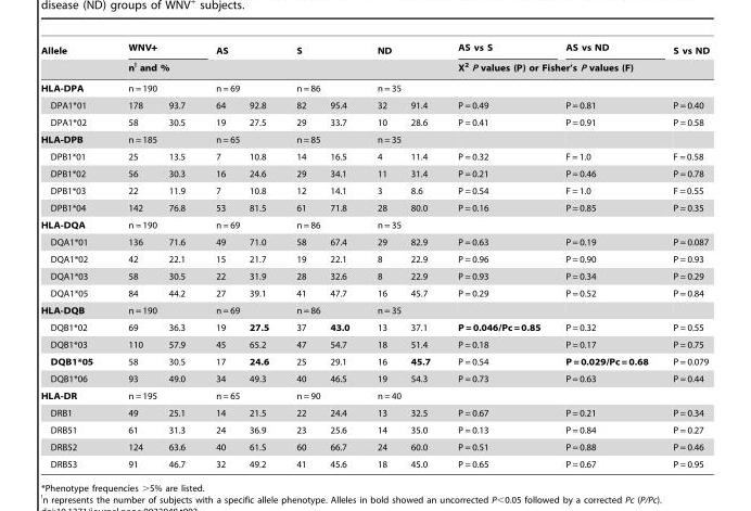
<table><thead><tr><td rowspan="4">Allele HLA-DPA DPA1*01</td><td colspan="2">WNV+</td><td colspan="2">AS</td><td colspan="2">S</td><td colspan="2">ND</td><td>AS vs S</td><td>AS vs ND</td><td>S vs ND</td></tr><tr><td colspan="8">n! and %</td><td colspan="3">X<sup>2</sup> P values (P) or Fisher’s P values (F)</td></tr><tr><td colspan="2">n = 190</td><td colspan="2">n = 69</td><td colspan="2">n = 86</td><td colspan="2">n = 35</td><td rowspan="2">P = 0.49</td><td rowspan="2">P = 0.81</td><td rowspan="2">P = 0.40</td></tr><tr><td>178</td><td>93.7</td><td>64</td><td>92.8</td><td>82</td><td>95.4</td><td>32</td><td>91.4</td></tr></thead><tbody><tr><td>DPA1*02</td><td>58</td><td>30.5</td><td>19</td><td>27.5</td><td>29</td><td>33.7</td><td>10</td><td>28.6</td><td>P = 0.41</td><td>P = 0.91</td><td>P = 0.58</td></tr><tr><td>HLA-DPB</td><td colspan="2">n = 185</td><td colspan="2">n = 65</td><td colspan="2">n = 85</td><td colspan="2">n = 35</td><td></td><td></td><td></td></tr><tr><td>DPB1*01</td><td>25</td><td>13.5</td><td>7</td><td>10.8</td><td>14</td><td>16.5</td><td>4</td><td>11.4</td><td>P = 0.32</td><td>F = 1.0</td><td>F = 0.58</td></tr><tr><td>DPB1*02</td><td>56</td><td>30.3</td><td>16</td><td>24.6</td><td>29</td><td>34.1</td><td>11</td><td>31.4</td><td>P = 0.21</td><td>P = 0.46</td><td>P = 0.78</td></tr><tr><td>DPB1*03</td><td>22</td><td>11.9</td><td>7</td><td>10.8</td><td>12</td><td>14.1</td><td>3</td><td>8.6</td><td>P = 0.54</td><td>F = 1.0</td><td>F = 0.55</td></tr><tr><td>DPB1*04</td><td>142</td><td>76.8</td><td>53</td><td>81.5</td><td>61</td><td>71.8</td><td>28</td><td>80.0</td><td>P = 0.16</td><td>P = 0.85</td><td>P = 0.35</td></tr><tr><td>HLA-DQA</td><td colspan="2">n = 190</td><td colspan="2">n = 69</td><td colspan="2">n = 86</td><td colspan="2">n = 35</td><td></td><td></td><td></td></tr><tr><td>DQA1*01</td><td>136</td><td>71.6</td><td>49</td><td>71.0</td><td>58</td><td>67.4</td><td>29</td><td>82.9</td><td>P = 0.63</td><td>P = 0.19</td><td>P = 0.087</td></tr><tr><td>DQA1*02</td><td>42</td><td>22.1</td><td>15</td><td>21.7</td><td>19</td><td>22.1</td><td>8</td><td>22.9</td><td>P = 0.96</td><td>P = 0.90</td><td>P = 0.93</td></tr><tr><td>DQA1*03</td><td>58</td><td>30.5</td><td>22</td><td>31.9</td><td>28</td><td>32.6</td><td>8</td><td>22.9</td><td>P = 0.93</td><td>P = 0.34</td><td>P = 0.29</td></tr><tr><td>DQA1*05</td><td>84</td><td>44.2</td><td>27</td><td>39.1</td><td>41</td><td>47.7</td><td>16</td><td>45.7</td><td>P = 0.29</td><td>P = 0.52</td><td>P = 0.84</td></tr><tr><td>HLA-DQB</td><td colspan="2">n = 190</td><td colspan="2">n = 69</td><td colspan="2">n = 86</td><td colspan="2">n = 35</td><td></td><td></td><td></td></tr><tr><td>DQB1*02</td><td>69</td><td>36.3</td><td>19</td><td>27.5</td><td>37</td><td>43.0</td><td>13</td><td>37.1</td><td>P = 0.046/Pc = 0.85</td><td>P = 0.32</td><td>P = 0.55</td></tr><tr><td>DQB1*03</td><td>110</td><td>57.9</td><td>45</td><td>65.2</td><td>47</td><td>54.7</td><td>18</td><td>51.4</td><td>P = 0.18</td><td>P = 0.17</td><td>P = 0.75</td></tr><tr><td>DQB1*05</td><td>58</td><td>30.5</td><td>17</td><td>24.6</td><td>25</td><td>29.1</td><td>16</td><td>45.7</td><td>P = 0.54</td><td>P = 0.029/Pc = 0.68</td><td>P = 0.079</td></tr><tr><td>DQB1*06</td><td>93</td><td>49.0</td><td>34</td><td>49.3</td><td>40</td><td>46.5</td><td>19</td><td>54.3</td><td>P = 0.73</td><td>P = 0.63</td><td>P = 0.44</td></tr><tr><td>HLA-DR</td><td colspan="2">n = 195</td><td colspan="2">n = 65</td><td colspan="2">n = 90</td><td colspan="2">n = 40</td><td></td><td></td><td></td></tr><tr><td>DRB1</td><td>49</td><td>25.1</td><td>14</td><td>21.5</td><td>22</td><td>24.4</td><td>13</td><td>32.5</td><td>P = 0.67</td><td>P = 0.21</td><td>P = 0.34</td></tr><tr><td>DRB51</td><td>61</td><td>31.3</td><td>24</td><td>36.9</td><td>23</td><td>25.6</td><td>14</td><td>35.0</td><td>P = 0.13</td><td>P = 0.84</td><td>P = 0.27</td></tr><tr><td>DRB52</td><td>124</td><td>63.6</td><td>40</td><td>61.5</td><td>60</td><td>66.7</td><td>24</td><td>60.0</td><td>P = 0.51</td><td>P = 0.88</td><td>P = 0.46</td></tr><tr><td>DRB53</td><td>91</td><td>46.7</td><td>32</td><td>49.2</td><td>41</td><td>45.6</td><td>18</td><td>45.0</td><td>P = 0.65</td><td>P = 0.67</td><td>P = 0.95</td></tr></tbody></table>